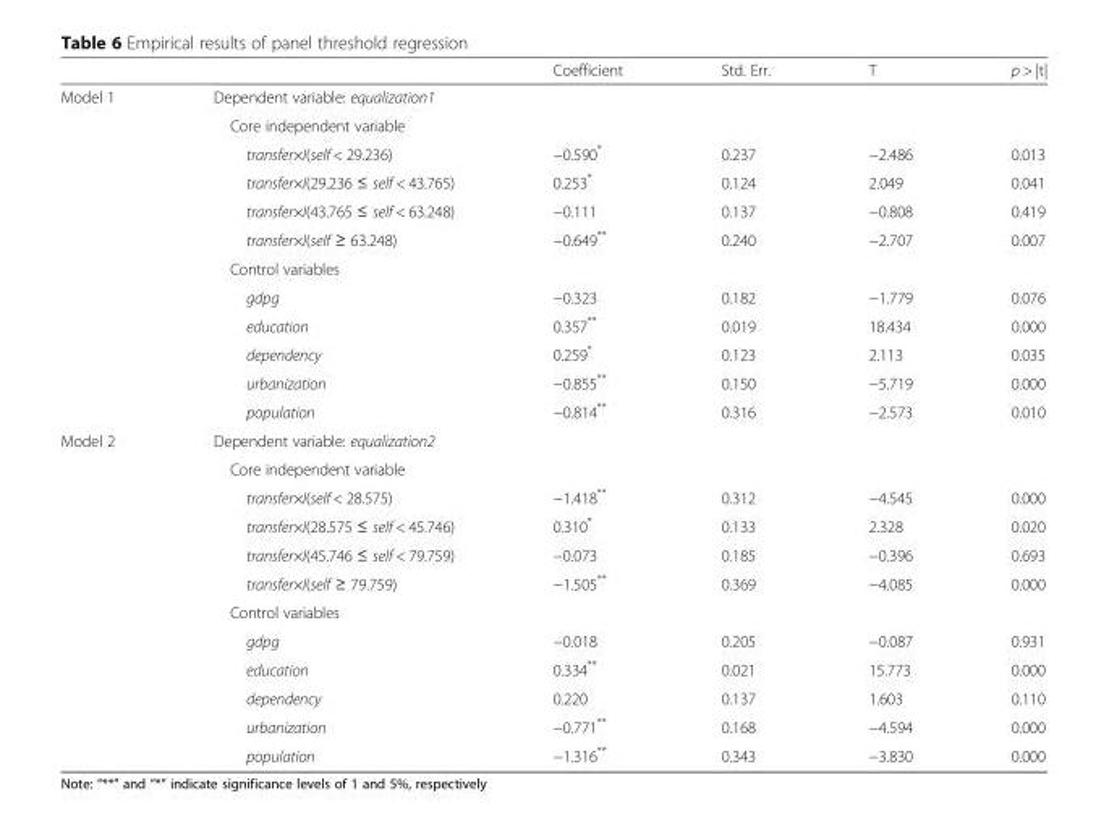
<table><thead><tr><td></td><td></td><td>Coefficient</td><td>Std. Err.</td><td>T</td><td>p &gt; |t|</td></tr></thead><tbody><tr><td rowspan="12">Model 1</td><td colspan="5">Dependent variable: equalization1</td></tr><tr><td colspan="5">Core independent variable</td></tr><tr><td>transfer×I(self &lt; 29.236)</td><td>−0.590*</td><td>0.237</td><td>−2.486</td><td>0.013</td></tr><tr><td>transfer×I(29.236 ≤ self &lt; 43.765)</td><td>0.253*</td><td>0.124</td><td>2.049</td><td>0.041</td></tr><tr><td>transfer×I(43.765 ≤ self &lt; 63.248)</td><td>−0.111</td><td>0.137</td><td>−0.808</td><td>0.419</td></tr><tr><td>transfer×I(self ≥ 63.248)</td><td>−0.649**</td><td>0.240</td><td>−2.707</td><td>0.007</td></tr><tr><td colspan="5">Control variables</td></tr><tr><td>gdpg</td><td>−0.323</td><td>0.182</td><td>−1.779</td><td>0.076</td></tr><tr><td>education</td><td>0.357**</td><td>0.019</td><td>18.434</td><td>0.000</td></tr><tr><td>dependency</td><td>0.259*</td><td>0.123</td><td>2.113</td><td>0.035</td></tr><tr><td>urbanization</td><td>−0.855**</td><td>0.150</td><td>−5.719</td><td>0.000</td></tr><tr><td>population</td><td>−0.814**</td><td>0.316</td><td>−2.573</td><td>0.010</td></tr><tr><td rowspan="12">Model 2</td><td colspan="5">Dependent variable: equalization2</td></tr><tr><td colspan="5">Core independent variable</td></tr><tr><td>transfer×I(self &lt; 28.575)</td><td>−1.418**</td><td>0.312</td><td>−4.545</td><td>0.000</td></tr><tr><td>transfer×I(28.575 ≤ self &lt; 45.746)</td><td>0.310*</td><td>0.133</td><td>2.328</td><td>0.020</td></tr><tr><td>transfer×I(45.746 ≤ self &lt; 79.759)</td><td>−0.073</td><td>0.185</td><td>−0.396</td><td>0.693</td></tr><tr><td>transfer×I(self ≥ 79.759)</td><td>−1.505**</td><td>0.369</td><td>−4.085</td><td>0.000</td></tr><tr><td colspan="5">Control variables</td></tr><tr><td>gdpg</td><td>−0.018</td><td>0.205</td><td>−0.087</td><td>0.931</td></tr><tr><td>education</td><td>0.334**</td><td>0.021</td><td>15.773</td><td>0.000</td></tr><tr><td>dependency</td><td>0.220</td><td>0.137</td><td>1.603</td><td>0.110</td></tr><tr><td>urbanization</td><td>−0.771**</td><td>0.168</td><td>−4.594</td><td>0.000</td></tr><tr><td>population</td><td>−1.316**</td><td>0.343</td><td>−3.830</td><td>0.000</td></tr></tbody></table>